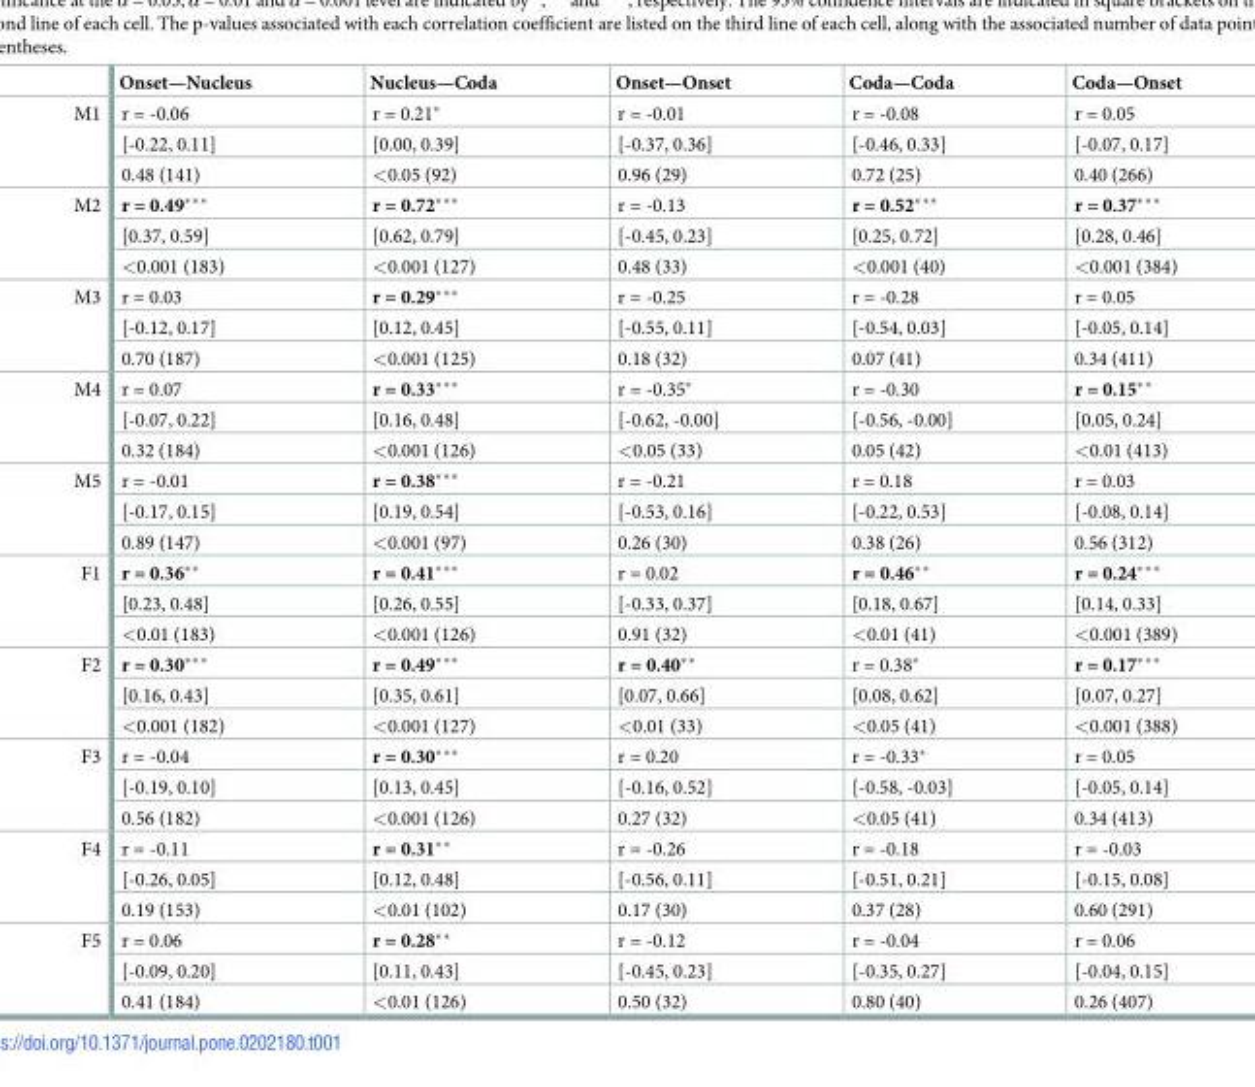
<table><thead><tr><td></td><td>Onset—Nucleus</td><td>Nucleus—Coda</td><td>Onset—Onset</td><td>Coda—Coda</td><td>Coda—Onset</td></tr></thead><tbody><tr><td rowspan="3">M1</td><td>r = -0.06</td><td>r = 0.21*</td><td>r = -0.01</td><td>r = -0.08</td><td>r = 0.05</td></tr><tr><td>[-0.22, 0.11]</td><td>[0.00, 0.39]</td><td>[-0.37, 0.36]</td><td>[-0.46, 0.33]</td><td>[-0.07, 0.17]</td></tr><tr><td>0.48 (141)</td><td>&lt;0.05 (92)</td><td>0.96 (29)</td><td>0.72 (25)</td><td>0.40 (266)</td></tr><tr><td rowspan="3">M2</td><td>r = 0.49***</td><td>r = 0.72***</td><td>r = -0.13</td><td>r = 0.52***</td><td>r = 0.37***</td></tr><tr><td>[0.37, 0.59]</td><td>[0.62, 0.79]</td><td>[-0.45, 0.23]</td><td>[0.25, 0.72]</td><td>[0.28, 0.46]</td></tr><tr><td>&lt;0.001 (183)</td><td>&lt;0.001 (127)</td><td>0.48 (33)</td><td>&lt;0.001 (40)</td><td>&lt;0.001 (384)</td></tr><tr><td rowspan="3">M3</td><td>r = 0.03</td><td>r = 0.29***</td><td>r = -0.25</td><td>r = -0.28</td><td>r = 0.05</td></tr><tr><td>[-0.12, 0.17]</td><td>[0.12, 0.45]</td><td>[-0.55, 0.11]</td><td>[-0.54, 0.03]</td><td>[-0.05, 0.14]</td></tr><tr><td>0.70 (187)</td><td>&lt;0.001 (125)</td><td>0.18 (32)</td><td>0.07 (41)</td><td>0.34 (411)</td></tr><tr><td rowspan="3">M4</td><td>r = 0.07</td><td>r = 0.33***</td><td>r = -0.35*</td><td>r = -0.30</td><td>r = 0.15**</td></tr><tr><td>[-0.07, 0.22]</td><td>[0.16, 0.48]</td><td>[-0.62, -0.00]</td><td>[-0.56, -0.00]</td><td>[0.05, 0.24]</td></tr><tr><td>0.32 (184)</td><td>&lt;0.001 (126)</td><td>&lt;0.05 (33)</td><td>0.05 (42)</td><td>&lt;0.01 (413)</td></tr><tr><td rowspan="3">M5</td><td>r = -0.01</td><td>r = 0.38***</td><td>r = -0.21</td><td>r = 0.18</td><td>r = 0.03</td></tr><tr><td>[-0.17, 0.15]</td><td>[0.19, 0.54]</td><td>[-0.53, 0.16]</td><td>[-0.22, 0.53]</td><td>[-0.08, 0.14]</td></tr><tr><td>0.89 (147)</td><td>&lt;0.001 (97)</td><td>0.26 (30)</td><td>0.38 (26)</td><td>0.56 (312)</td></tr><tr><td rowspan="3">F1</td><td>r = 0.36**</td><td>r = 0.41***</td><td>r = 0.02</td><td>r = 0.46**</td><td>r = 0.24***</td></tr><tr><td>[0.23, 0.48]</td><td>[0.26, 0.55]</td><td>[-0.33, 0.37]</td><td>[0.18, 0.67]</td><td>[0.14, 0.33]</td></tr><tr><td>&lt;0.01 (183)</td><td>&lt;0.001 (126)</td><td>0.91 (32)</td><td>&lt;0.01 (41)</td><td>&lt;0.001 (389)</td></tr><tr><td rowspan="3">F2</td><td>r = 0.30***</td><td>r = 0.49***</td><td>r = 0.40**</td><td>r = 0.38*</td><td>r = 0.17***</td></tr><tr><td>[0.16, 0.43]</td><td>[0.35, 0.61]</td><td>[0.07, 0.66]</td><td>[0.08, 0.62]</td><td>[0.07, 0.27]</td></tr><tr><td>&lt;0.001 (182)</td><td>&lt;0.001 (127)</td><td>&lt;0.01 (33)</td><td>&lt;0.05 (41)</td><td>&lt;0.001 (388)</td></tr><tr><td rowspan="3">F3</td><td>r = -0.04</td><td>r = 0.30***</td><td>r = 0.20</td><td>r = -0.33*</td><td>r = 0.05</td></tr><tr><td>[-0.19, 0.10]</td><td>[0.13, 0.45]</td><td>[-0.16, 0.52]</td><td>[-0.58, -0.03]</td><td>[-0.05, 0.14]</td></tr><tr><td>0.56 (182)</td><td>&lt;0.001 (126)</td><td>0.27 (32)</td><td>&lt;0.05 (41)</td><td>0.34 (413)</td></tr><tr><td rowspan="3">F4</td><td>r = -0.11</td><td>r = 0.31**</td><td>r = -0.26</td><td>r = -0.18</td><td>r = -0.03</td></tr><tr><td>[-0.26, 0.05]</td><td>[0.12, 0.48]</td><td>[-0.56, 0.11]</td><td>[-0.51, 0.21]</td><td>[-0.15, 0.08]</td></tr><tr><td>0.19 (153)</td><td>&lt;0.01 (102)</td><td>0.17 (30)</td><td>0.37 (28)</td><td>0.60 (291)</td></tr><tr><td rowspan="3">F5</td><td>r = 0.06</td><td>r = 0.28**</td><td>r = -0.12</td><td>r = -0.04</td><td>r = 0.06</td></tr><tr><td>[-0.09, 0.20]</td><td>[0.11, 0.43]</td><td>[-0.45, 0.23]</td><td>[-0.35, 0.27]</td><td>[-0.04, 0.15]</td></tr><tr><td>0.41 (184)</td><td>&lt;0.01 (126)</td><td>0.50 (32)</td><td>0.80 (40)</td><td>0.26 (407)</td></tr></tbody></table>